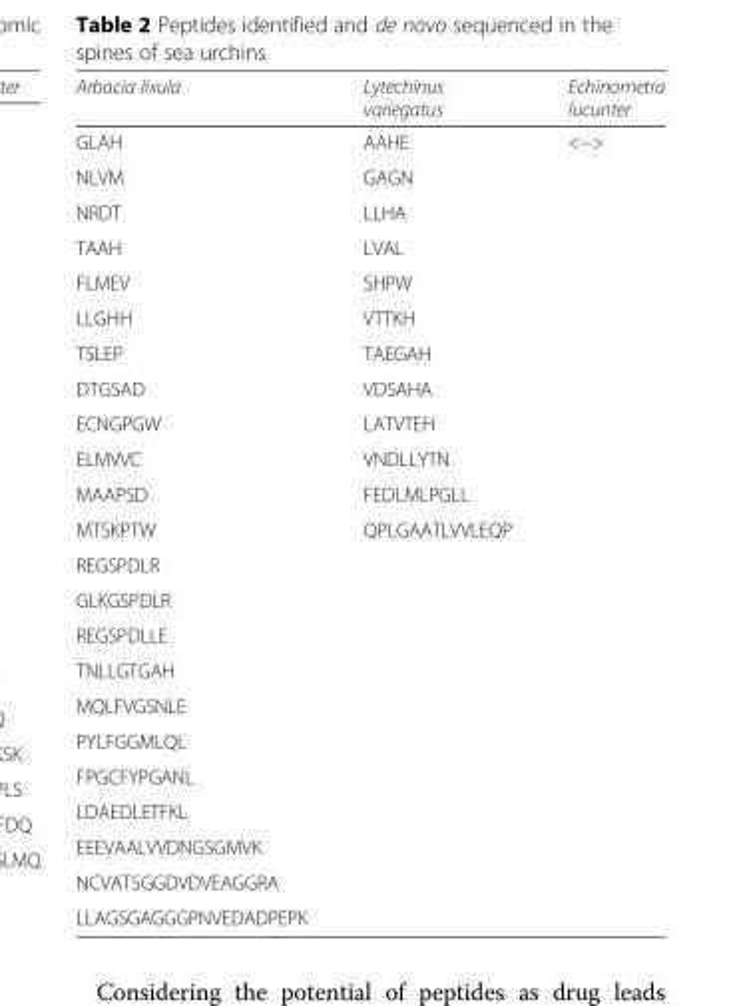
<table><thead><tr><td>Arbacia lixula</td><td>Lytechinus variegatus</td><td>Echinometra lucunter</td></tr></thead><tbody><tr><td>GLAH</td><td>AAHE</td><td>&lt;−&gt;</td></tr><tr><td>NLVM</td><td>GAGN</td><td></td></tr><tr><td>NRDT</td><td>LLHA</td><td></td></tr><tr><td>TAAH</td><td>LVAL</td><td></td></tr><tr><td>FLMEV</td><td>SHPW</td><td></td></tr><tr><td>LLGHH</td><td>VTTKH</td><td></td></tr><tr><td>TSLEP</td><td>TAEGAH</td><td></td></tr><tr><td>DTGSAD</td><td>VDSAHA</td><td></td></tr><tr><td>ECNGPGW</td><td>LATVTEH</td><td></td></tr><tr><td>ELMVVC</td><td>VNDLLYTN</td><td></td></tr><tr><td>MAAPSD</td><td>FEDLMLPGLL</td><td></td></tr><tr><td>MTSKPTW</td><td>QPLGAATLVVLEQP</td><td></td></tr><tr><td colspan="3">REGSPDLR</td></tr><tr><td colspan="3">GLKGSPDLR</td></tr><tr><td colspan="3">REGSPDLLE</td></tr><tr><td colspan="3">TNLLGTGAH</td></tr><tr><td colspan="3">MQLFVGSNLE</td></tr><tr><td colspan="3">PYLFGGMLQL</td></tr><tr><td colspan="3">FPGCFYPGANL</td></tr><tr><td colspan="3">LDAEDLETFKL</td></tr><tr><td colspan="3">EEEVAALVVDNGSGMVK</td></tr><tr><td colspan="3">NCVATSGGDVDVEAGGRA</td></tr><tr><td>LLAGSGAGGGPNVEDADPEPK</td><td></td><td></td></tr></tbody></table>